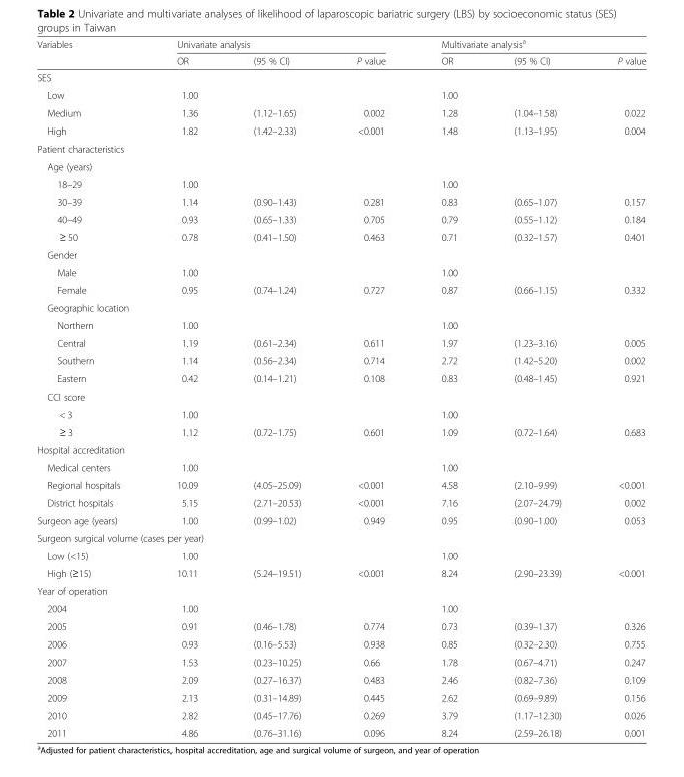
<table><thead><tr><td rowspan="2">Variables</td><td colspan="3">Univariate analysis</td><td colspan="3">Multivariate analysis<sup>a</sup></td></tr><tr><td>OR</td><td>(95 % CI)</td><td>P value</td><td>OR</td><td>(95 % CI)</td><td>P value</td></tr></thead><tbody><tr><td colspan="7">SES</td></tr><tr><td>Low</td><td>1.00</td><td></td><td></td><td>1.00</td><td></td><td></td></tr><tr><td>Medium</td><td>1.36</td><td>(1.12–1.65)</td><td>0.002</td><td>1.28</td><td>(1.04–1.58)</td><td>0.022</td></tr><tr><td>High</td><td>1.82</td><td>(1.42–2.33)</td><td>&lt;0.001</td><td>1.48</td><td>(1.13–1.95)</td><td>0.004</td></tr><tr><td colspan="7">Patient characteristics</td></tr><tr><td colspan="7">Age (years)</td></tr><tr><td>18–29</td><td>1.00</td><td></td><td></td><td>1.00</td><td></td><td></td></tr><tr><td>30–39</td><td>1.14</td><td>(0.90–1.43)</td><td>0.281</td><td>0.83</td><td>(0.65–1.07)</td><td>0.157</td></tr><tr><td>40–49</td><td>0.93</td><td>(0.65–1.33)</td><td>0.705</td><td>0.79</td><td>(0.55–1.12)</td><td>0.184</td></tr><tr><td>≥ 50</td><td>0.78</td><td>(0.41–1.50)</td><td>0.463</td><td>0.71</td><td>(0.32–1.57)</td><td>0.401</td></tr><tr><td colspan="7">Gender</td></tr><tr><td>Male</td><td>1.00</td><td></td><td></td><td>1.00</td><td></td><td></td></tr><tr><td>Female</td><td>0.95</td><td>(0.74–1.24)</td><td>0.727</td><td>0.87</td><td>(0.66–1.15)</td><td>0.332</td></tr><tr><td colspan="7">Geographic location</td></tr><tr><td>Northern</td><td>1.00</td><td></td><td></td><td>1.00</td><td></td><td></td></tr><tr><td>Central</td><td>1.19</td><td>(0.61–2.34)</td><td>0.611</td><td>1.97</td><td>(1.23–3.16)</td><td>0.005</td></tr><tr><td>Southern</td><td>1.14</td><td>(0.56–2.34)</td><td>0.714</td><td>2.72</td><td>(1.42–5.20)</td><td>0.002</td></tr><tr><td>Eastern</td><td>0.42</td><td>(0.14–1.21)</td><td>0.108</td><td>0.83</td><td>(0.48–1.45)</td><td>0.921</td></tr><tr><td colspan="7">CCI score</td></tr><tr><td>&lt; 3</td><td>1.00</td><td></td><td></td><td>1.00</td><td></td><td></td></tr><tr><td>≥ 3</td><td>1.12</td><td>(0.72–1.75)</td><td>0.601</td><td>1.09</td><td>(0.72–1.64)</td><td>0.683</td></tr><tr><td colspan="7">Hospital accreditation</td></tr><tr><td>Medical centers</td><td>1.00</td><td></td><td></td><td>1.00</td><td></td><td></td></tr><tr><td>Regional hospitals</td><td>10.09</td><td>(4.05–25.09)</td><td>&lt;0.001</td><td>4.58</td><td>(2.10–9.99)</td><td>&lt;0.001</td></tr><tr><td>District hospitals</td><td>5.15</td><td>(2.71–20.53)</td><td>&lt;0.001</td><td>7.16</td><td>(2.07–24.79)</td><td>0.002</td></tr><tr><td>Surgeon age (years)</td><td>1.00</td><td>(0.99–1.02)</td><td>0.949</td><td>0.95</td><td>(0.90–1.00)</td><td>0.053</td></tr><tr><td colspan="7">Surgeon surgical volume (cases per year)</td></tr><tr><td>Low (&lt;15)</td><td>1.00</td><td></td><td></td><td>1.00</td><td></td><td></td></tr><tr><td>High (≥15)</td><td>10.11</td><td>(5.24–19.51)</td><td>&lt;0.001</td><td>8.24</td><td>(2.90–23.39)</td><td>&lt;0.001</td></tr><tr><td colspan="7">Year of operation</td></tr><tr><td>2004</td><td>1.00</td><td></td><td></td><td>1.00</td><td></td><td></td></tr><tr><td>2005</td><td>0.91</td><td>(0.46–1.78)</td><td>0.774</td><td>0.73</td><td>(0.39–1.37)</td><td>0.326</td></tr><tr><td>2006</td><td>0.93</td><td>(0.16–5.53)</td><td>0.938</td><td>0.85</td><td>(0.32–2.30)</td><td>0.755</td></tr><tr><td>2007</td><td>1.53</td><td>(0.23–10.25)</td><td>0.66</td><td>1.78</td><td>(0.67–4.71)</td><td>0.247</td></tr><tr><td>2008</td><td>2.09</td><td>(0.27–16.37)</td><td>0.483</td><td>2.46</td><td>(0.82–7.36)</td><td>0.109</td></tr><tr><td>2009</td><td>2.13</td><td>(0.31–14.89)</td><td>0.445</td><td>2.62</td><td>(0.69–9.89)</td><td>0.156</td></tr><tr><td>2010</td><td>2.82</td><td>(0.45–17.76)</td><td>0.269</td><td>3.79</td><td>(1.17–12.30)</td><td>0.026</td></tr><tr><td>2011</td><td>4.86</td><td>(0.76–31.16)</td><td>0.096</td><td>8.24</td><td>(2.59–26.18)</td><td>0.001</td></tr></tbody></table>